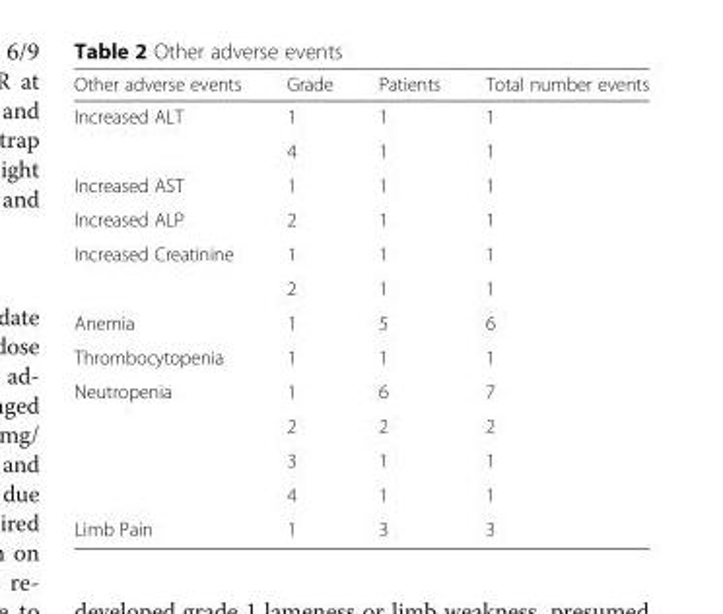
<table><thead><tr><td>Other adverse events</td><td>Grade</td><td>Patients</td><td>Total number events</td></tr></thead><tbody><tr><td rowspan="2">Increased ALT</td><td>1</td><td>1</td><td>1</td></tr><tr><td>4</td><td>1</td><td>1</td></tr><tr><td>Increased AST</td><td>1</td><td>1</td><td>1</td></tr><tr><td>Increased ALP</td><td>2</td><td>1</td><td>1</td></tr><tr><td rowspan="2">Increased Creatinine</td><td>1</td><td>1</td><td>1</td></tr><tr><td>2</td><td>1</td><td>1</td></tr><tr><td>Anemia</td><td>1</td><td>5</td><td>6</td></tr><tr><td>Thrombocytopenia</td><td>1</td><td>1</td><td>1</td></tr><tr><td rowspan="4">Neutropenia</td><td>1</td><td>6</td><td>7</td></tr><tr><td>2</td><td>2</td><td>2</td></tr><tr><td>3</td><td>1</td><td>1</td></tr><tr><td>4</td><td>1</td><td>1</td></tr><tr><td>Limb Pain</td><td>1</td><td>3</td><td>3</td></tr></tbody></table>